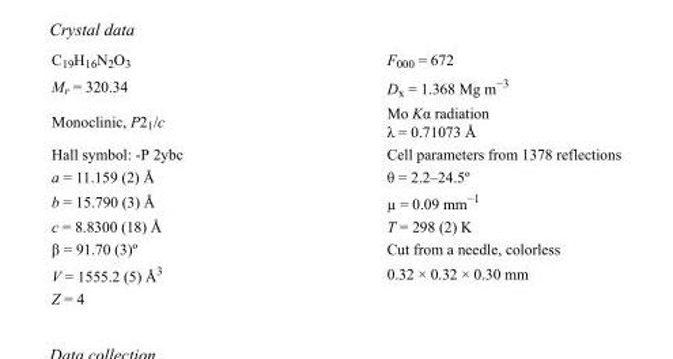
<table><tbody><tr><td>C<sub>19</sub>H<sub>16</sub>N<sub>2</sub>O<sub>3</sub></td><td>F<sub>000</sub> = 672</td></tr><tr><td>M<sub>r</sub> = 320.34</td><td>D<sub>x</sub> = 1.368 Mg m<sup>−3</sup></td></tr><tr><td>Monoclinic, P2<sub>1</sub>/c</td><td>Mo Kα radiation λ = 0.71073 Å</td></tr><tr><td>Hall symbol: -P 2ybc</td><td>Cell parameters from 1378 reflections</td></tr><tr><td>a = 11.159 (2) Å</td><td>θ = 2.2–24.5º</td></tr><tr><td>b = 15.790 (3) Å</td><td>µ = 0.09 mm<sup>−1</sup></td></tr><tr><td>c = 8.8300 (18) Å</td><td>T = 298 (2) K</td></tr><tr><td>β = 91.70 (3)º</td><td>Cut from a needle, colorless</td></tr><tr><td>V = 1555.2 (5) Å<sup>3</sup></td><td>0.32 × 0.32 × 0.30 mm</td></tr><tr><td>Z = 4</td><td></td></tr></tbody></table>